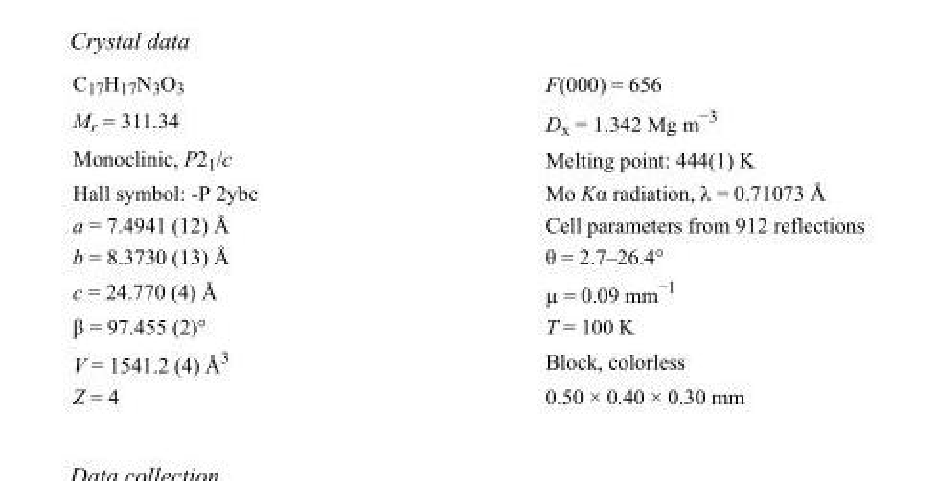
<table><tbody><tr><td>C<sub>17</sub>H<sub>17</sub>N<sub>3</sub>O<sub>3</sub></td><td>F(000) = 656</td></tr><tr><td>M<sub>r</sub> = 311.34</td><td>D<sub>x</sub> = 1.342 Mg m<sup>−3</sup></td></tr><tr><td>Monoclinic, P2<sub>1</sub>/c</td><td>Melting point: 444(1) K</td></tr><tr><td>Hall symbol: -P 2ybc</td><td>Mo Kα radiation, λ = 0.71073 Å</td></tr><tr><td>a = 7.4941 (12) Å</td><td>Cell parameters from 912 reflections</td></tr><tr><td>b = 8.3730 (13) Å</td><td>θ = 2.7–26.4°</td></tr><tr><td>c = 24.770 (4) Å</td><td>µ = 0.09 mm<sup>−1</sup></td></tr><tr><td>β = 97.455 (2)°</td><td>T = 100 K</td></tr><tr><td>V = 1541.2 (4) Å<sup>3</sup></td><td>Block, colorless</td></tr><tr><td>Z = 4</td><td>0.50 × 0.40 × 0.30 mm</td></tr></tbody></table>